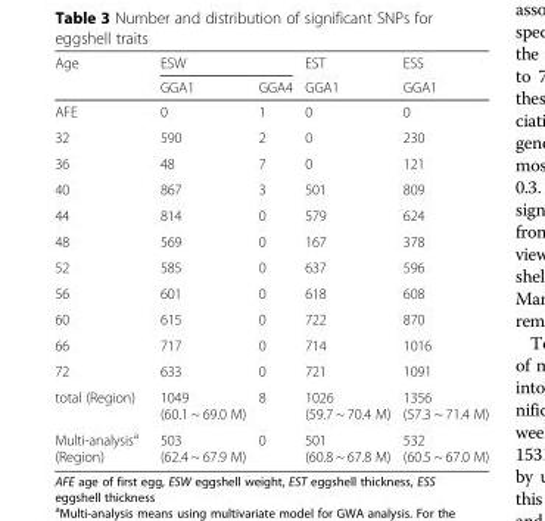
<table><thead><tr><td rowspan="2">Age</td><td colspan="2">ESW</td><td rowspan="2">EST GGA1</td><td rowspan="2">ESS GGA1</td></tr><tr><td>GGA1</td><td>GGA4</td></tr></thead><tbody><tr><td>AFE</td><td>0</td><td>1</td><td>0</td><td>0</td></tr><tr><td>32</td><td>590</td><td>2</td><td>0</td><td>230</td></tr><tr><td>36</td><td>48</td><td>7</td><td>0</td><td>121</td></tr><tr><td>40</td><td>867</td><td>3</td><td>501</td><td>809</td></tr><tr><td>44</td><td>814</td><td>0</td><td>579</td><td>624</td></tr><tr><td>48</td><td>569</td><td>0</td><td>167</td><td>378</td></tr><tr><td>52</td><td>585</td><td>0</td><td>637</td><td>596</td></tr><tr><td>56</td><td>601</td><td>0</td><td>618</td><td>608</td></tr><tr><td>60</td><td>615</td><td>0</td><td>722</td><td>870</td></tr><tr><td>66</td><td>717</td><td>0</td><td>714</td><td>1016</td></tr><tr><td>72</td><td>633</td><td>0</td><td>721</td><td>1091</td></tr><tr><td>total (Region)</td><td>1049 (60.1 ~ 69.0 M)</td><td>8</td><td>1026 (59.7 ~ 70.4 M)</td><td>1356 (57.3 ~ 71.4 M)</td></tr><tr><td>Multi-analysis<sup>a</sup> (Region)</td><td>503 (62.4 ~ 67.9 M)</td><td>0</td><td>501 (60.8 ~ 67.8 M)</td><td>532 (60.5 ~ 67.0 M)</td></tr></tbody></table>